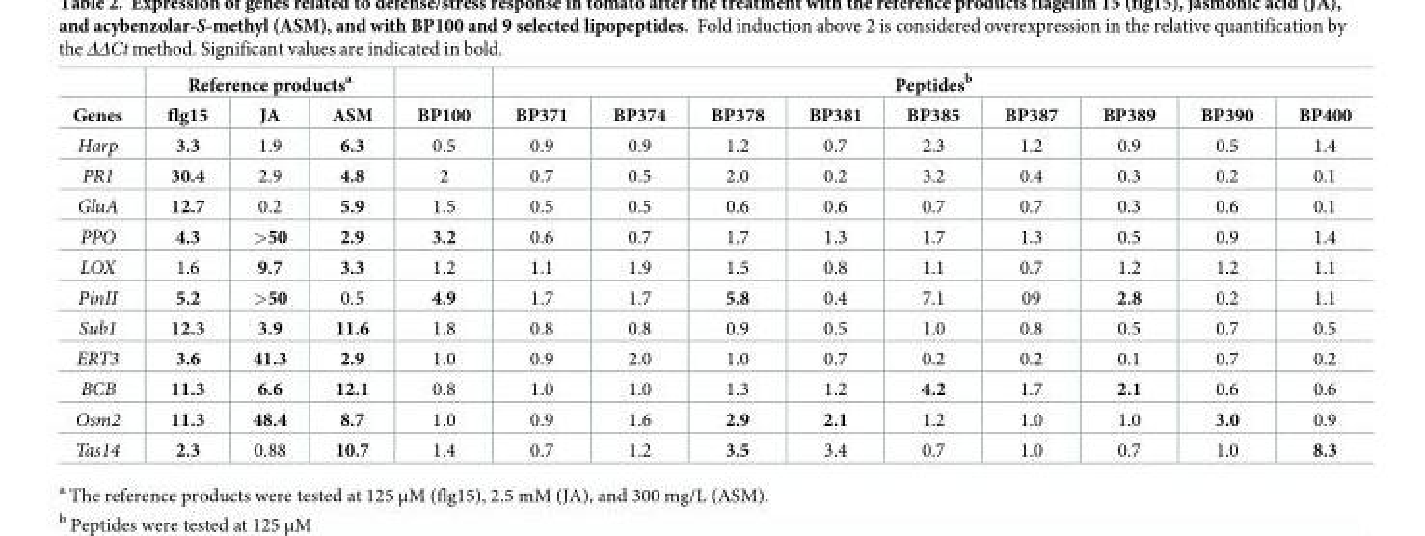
<table><thead><tr><td rowspan="2">Genes</td><td colspan="3">Reference products<sup>a</sup></td><td rowspan="2">BP100</td><td colspan="9">Peptides<sup>b</sup></td></tr><tr><td>flg15</td><td>JA</td><td>ASM</td><td>BP371</td><td>BP374</td><td>BP378</td><td>BP381</td><td>BP385</td><td>BP387</td><td>BP389</td><td>BP390</td><td>BP400</td></tr></thead><tbody><tr><td>Harp</td><td>3.3</td><td>1.9</td><td>6.3</td><td>0.5</td><td>0.9</td><td>0.9</td><td>1.2</td><td>0.7</td><td>2.3</td><td>1.2</td><td>0.9</td><td>0.5</td><td>1.4</td></tr><tr><td>PR1</td><td>30.4</td><td>2.9</td><td>4.8</td><td>2</td><td>0.7</td><td>0.5</td><td>2.0</td><td>0.2</td><td>3.2</td><td>0.4</td><td>0.3</td><td>0.2</td><td>0.1</td></tr><tr><td>GluA</td><td>12.7</td><td>0.2</td><td>5.9</td><td>1.5</td><td>0.5</td><td>0.5</td><td>0.6</td><td>0.6</td><td>0.7</td><td>0.7</td><td>0.3</td><td>0.6</td><td>0.1</td></tr><tr><td>PPO</td><td>4.3</td><td>&gt;50</td><td>2.9</td><td>3.2</td><td>0.6</td><td>0.7</td><td>1.7</td><td>1.3</td><td>1.7</td><td>1.3</td><td>0.5</td><td>0.9</td><td>1.4</td></tr><tr><td>LOX</td><td>1.6</td><td>9.7</td><td>3.3</td><td>1.2</td><td>1.1</td><td>1.9</td><td>1.5</td><td>0.8</td><td>1.1</td><td>0.7</td><td>1.2</td><td>1.2</td><td>1.1</td></tr><tr><td>PinII</td><td>5.2</td><td>&gt;50</td><td>0.5</td><td>4.9</td><td>1.7</td><td>1.7</td><td>5.8</td><td>0.4</td><td>7.1</td><td>09</td><td>2.8</td><td>0.2</td><td>1.1</td></tr><tr><td>Sub1</td><td>12.3</td><td>3.9</td><td>11.6</td><td>1.8</td><td>0.8</td><td>0.8</td><td>0.9</td><td>0.5</td><td>1.0</td><td>0.8</td><td>0.5</td><td>0.7</td><td>0.5</td></tr><tr><td>ERT3</td><td>3.6</td><td>41.3</td><td>2.9</td><td>1.0</td><td>0.9</td><td>2.0</td><td>1.0</td><td>0.7</td><td>0.2</td><td>0.2</td><td>0.1</td><td>0.7</td><td>0.2</td></tr><tr><td>BCB</td><td>11.3</td><td>6.6</td><td>12.1</td><td>0.8</td><td>1.0</td><td>1.0</td><td>1.3</td><td>1.2</td><td>4.2</td><td>1.7</td><td>2.1</td><td>0.6</td><td>0.6</td></tr><tr><td>Osm2</td><td>11.3</td><td>48.4</td><td>8.7</td><td>1.0</td><td>0.9</td><td>1.6</td><td>2.9</td><td>2.1</td><td>1.2</td><td>1.0</td><td>1.0</td><td>3.0</td><td>0.9</td></tr><tr><td>Tas14</td><td>2.3</td><td>0.88</td><td>10.7</td><td>1.4</td><td>0.7</td><td>1.2</td><td>3.5</td><td>3.4</td><td>0.7</td><td>1.0</td><td>0.7</td><td>1.0</td><td>8.3</td></tr></tbody></table>